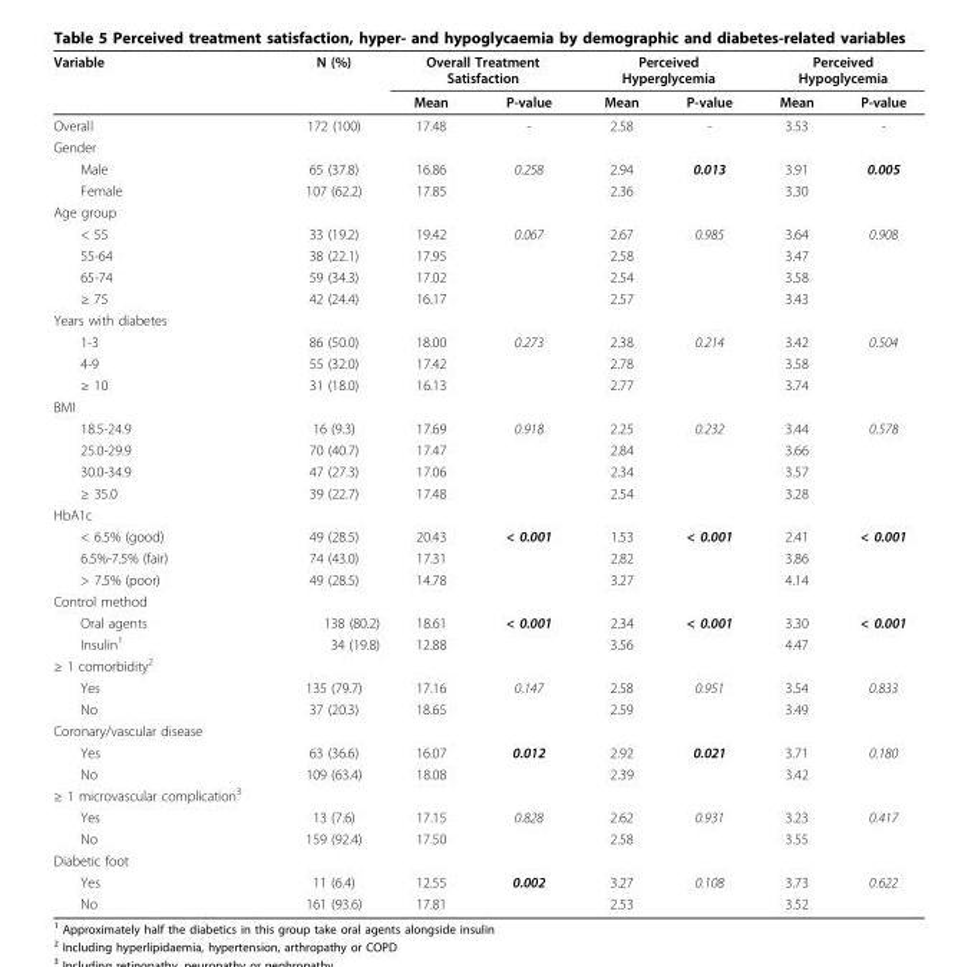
<table><thead><tr><td rowspan="2">Variable</td><td rowspan="2">N (%)</td><td colspan="2">Overall Treatment Satisfaction</td><td colspan="2">Perceived Hyperglycemia</td><td colspan="2">Perceived Hypoglycemia</td></tr><tr><td>Mean</td><td>P-value</td><td>Mean</td><td>P-value</td><td>Mean</td><td>P-value</td></tr></thead><tbody><tr><td>Overall</td><td>172 (100)</td><td>17.48</td><td>-</td><td>2.58</td><td>-</td><td>3.53</td><td>-</td></tr><tr><td colspan="8">Gender</td></tr><tr><td>Male</td><td>65 (37.8)</td><td>16.86</td><td>0.258</td><td>2.94</td><td>0.013</td><td>3.91</td><td>0.005</td></tr><tr><td>Female</td><td>107 (62.2)</td><td>17.85</td><td></td><td>2.36</td><td></td><td>3.30</td><td></td></tr><tr><td colspan="8">Age group</td></tr><tr><td>&lt; 55</td><td>33 (19.2)</td><td>19.42</td><td>0.067</td><td>2.67</td><td>0.985</td><td>3.64</td><td>0.908</td></tr><tr><td>55-64</td><td>38 (22.1)</td><td>17.95</td><td></td><td>2.58</td><td></td><td>3.47</td><td></td></tr><tr><td>65-74</td><td>59 (34.3)</td><td>17.02</td><td></td><td>2.54</td><td></td><td>3.58</td><td></td></tr><tr><td>≥ 75</td><td>42 (24.4)</td><td>16.17</td><td></td><td>2.57</td><td></td><td>3.43</td><td></td></tr><tr><td colspan="8">Years with diabetes</td></tr><tr><td>1-3</td><td>86 (50.0)</td><td>18.00</td><td>0.273</td><td>2.38</td><td>0.214</td><td>3.42</td><td>0.504</td></tr><tr><td>4-9</td><td>55 (32.0)</td><td>17.42</td><td></td><td>2.78</td><td></td><td>3.58</td><td></td></tr><tr><td>≥ 10</td><td>31 (18.0)</td><td>16.13</td><td></td><td>2.77</td><td></td><td>3.74</td><td></td></tr><tr><td colspan="8">BMI</td></tr><tr><td>18.5-24.9</td><td>16 (9.3)</td><td>17.69</td><td>0.918</td><td>2.25</td><td>0.232</td><td>3.44</td><td>0.578</td></tr><tr><td>25.0-29.9</td><td>70 (40.7)</td><td>17.47</td><td></td><td>2.84</td><td></td><td>3.66</td><td></td></tr><tr><td>30.0-34.9</td><td>47 (27.3)</td><td>17.06</td><td></td><td>2.34</td><td></td><td>3.57</td><td></td></tr><tr><td>≥ 35.0</td><td>39 (22.7)</td><td>17.48</td><td></td><td>2.54</td><td></td><td>3.28</td><td></td></tr><tr><td colspan="8">HbA1c</td></tr><tr><td>&lt; 6.5% (good)</td><td>49 (28.5)</td><td>20.43</td><td>&lt; 0.001</td><td>1.53</td><td>&lt; 0.001</td><td>2.41</td><td>&lt; 0.001</td></tr><tr><td>6.5%-7.5% (fair)</td><td>74 (43.0)</td><td>17.31</td><td></td><td>2.82</td><td></td><td>3.86</td><td></td></tr><tr><td>&gt; 7.5% (poor)</td><td>49 (28.5)</td><td>14.78</td><td></td><td>3.27</td><td></td><td>4.14</td><td></td></tr><tr><td colspan="8">Control method</td></tr><tr><td>Oral agents</td><td>138 (80.2)</td><td>18.61</td><td>&lt; 0.001</td><td>2.34</td><td>&lt; 0.001</td><td>3.30</td><td>&lt; 0.001</td></tr><tr><td>Insulin<sup>1</sup></td><td>34 (19.8)</td><td>12.88</td><td></td><td>3.56</td><td></td><td>4.47</td><td></td></tr><tr><td colspan="8">≥ 1 comorbidity<sup>2</sup></td></tr><tr><td>Yes</td><td>135 (79.7)</td><td>17.16</td><td>0.147</td><td>2.58</td><td>0.951</td><td>3.54</td><td>0.833</td></tr><tr><td>No</td><td>37 (20.3)</td><td>18.65</td><td></td><td>2.59</td><td></td><td>3.49</td><td></td></tr><tr><td colspan="8">Coronary/vascular disease</td></tr><tr><td>Yes</td><td>63 (36.6)</td><td>16.07</td><td>0.012</td><td>2.92</td><td>0.021</td><td>3.71</td><td>0.180</td></tr><tr><td>No</td><td>109 (63.4)</td><td>18.08</td><td></td><td>2.39</td><td></td><td>3.42</td><td></td></tr><tr><td colspan="8">≥ 1 microvascular complication<sup>3</sup></td></tr><tr><td>Yes</td><td>13 (7.6)</td><td>17.15</td><td>0.828</td><td>2.62</td><td>0.931</td><td>3.23</td><td>0.417</td></tr><tr><td>No</td><td>159 (92.4)</td><td>17.50</td><td></td><td>2.58</td><td></td><td>3.55</td><td></td></tr><tr><td colspan="8">Diabetic foot</td></tr><tr><td>Yes</td><td>11 (6.4)</td><td>12.55</td><td>0.002</td><td>3.27</td><td>0.108</td><td>3.73</td><td>0.622</td></tr><tr><td>No</td><td>161 (93.6)</td><td>17.81</td><td></td><td>2.53</td><td></td><td>3.52</td><td></td></tr></tbody></table>